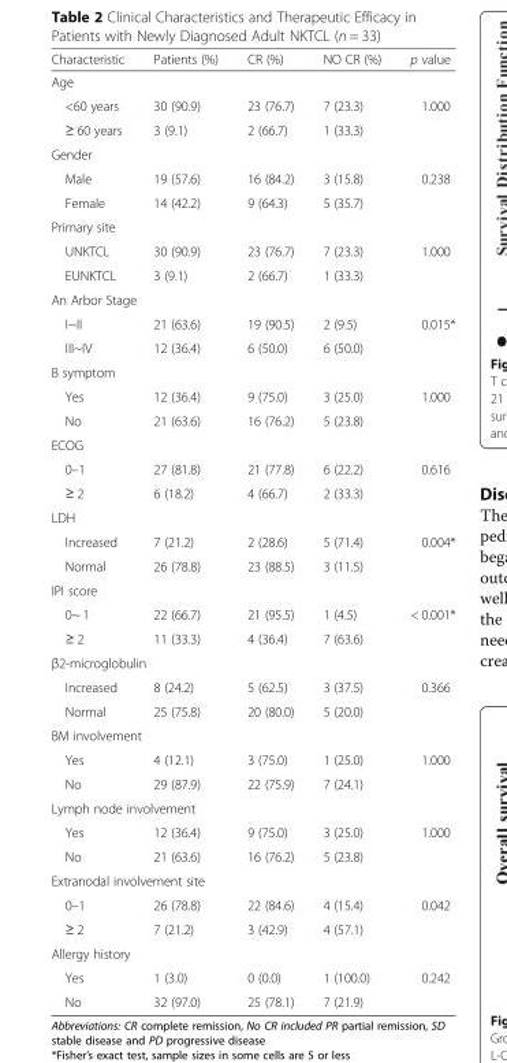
<table><thead><tr><td>Characteristic</td><td>Patients (%)</td><td>CR (%)</td><td>NO CR (%)</td><td>p value</td></tr></thead><tbody><tr><td colspan="5">Age</td></tr><tr><td>&lt;60 years</td><td>30 (90.9)</td><td>23 (76.7)</td><td>7 (23.3)</td><td>1.000</td></tr><tr><td>≥ 60 years</td><td>3 (9.1)</td><td>2 (66.7)</td><td>1 (33.3)</td><td></td></tr><tr><td colspan="5">Gender</td></tr><tr><td>Male</td><td>19 (57.6)</td><td>16 (84.2)</td><td>3 (15.8)</td><td>0.238</td></tr><tr><td>Female</td><td>14 (42.2)</td><td>9 (64.3)</td><td>5 (35.7)</td><td></td></tr><tr><td colspan="5">Primary site</td></tr><tr><td>UNKTCL</td><td>30 (90.9)</td><td>23 (76.7)</td><td>7 (23.3)</td><td>1.000</td></tr><tr><td>EUNKTCL</td><td>3 (9.1)</td><td>2 (66.7)</td><td>1 (33.3)</td><td></td></tr><tr><td colspan="5">An Arbor Stage</td></tr><tr><td>I~II</td><td>21 (63.6)</td><td>19 (90.5)</td><td>2 (9.5)</td><td>0.015*</td></tr><tr><td>III~IV</td><td>12 (36.4)</td><td>6 (50.0)</td><td>6 (50.0)</td><td></td></tr><tr><td colspan="5">B symptom</td></tr><tr><td>Yes</td><td>12 (36.4)</td><td>9 (75.0)</td><td>3 (25.0)</td><td>1.000</td></tr><tr><td>No</td><td>21 (63.6)</td><td>16 (76.2)</td><td>5 (23.8)</td><td></td></tr><tr><td colspan="5">ECOG</td></tr><tr><td>0–1</td><td>27 (81.8)</td><td>21 (77.8)</td><td>6 (22.2)</td><td>0.616</td></tr><tr><td>≥ 2</td><td>6 (18.2)</td><td>4 (66.7)</td><td>2 (33.3)</td><td></td></tr><tr><td colspan="5">LDH</td></tr><tr><td>Increased</td><td>7 (21.2)</td><td>2 (28.6)</td><td>5 (71.4)</td><td>0.004*</td></tr><tr><td>Normal</td><td>26 (78.8)</td><td>23 (88.5)</td><td>3 (11.5)</td><td></td></tr><tr><td colspan="5">IPI score</td></tr><tr><td>0~ 1</td><td>22 (66.7)</td><td>21 (95.5)</td><td>1 (4.5)</td><td>&lt; 0.001*</td></tr><tr><td>≥ 2</td><td>11 (33.3)</td><td>4 (36.4)</td><td>7 (63.6)</td><td></td></tr><tr><td colspan="5">β2-microglobulin</td></tr><tr><td>Increased</td><td>8 (24.2)</td><td>5 (62.5)</td><td>3 (37.5)</td><td>0.366</td></tr><tr><td>Normal</td><td>25 (75.8)</td><td>20 (80.0)</td><td>5 (20.0)</td><td></td></tr><tr><td colspan="5">BM involvement</td></tr><tr><td>Yes</td><td>4 (12.1)</td><td>3 (75.0)</td><td>1 (25.0)</td><td>1.000</td></tr><tr><td>No</td><td>29 (87.9)</td><td>22 (75.9)</td><td>7 (24.1)</td><td></td></tr><tr><td colspan="5">Lymph node involvement</td></tr><tr><td>Yes</td><td>12 (36.4)</td><td>9 (75.0)</td><td>3 (25.0)</td><td>1.000</td></tr><tr><td>No</td><td>21 (63.6)</td><td>16 (76.2)</td><td>5 (23.8)</td><td></td></tr><tr><td colspan="5">Extranodal involvement site</td></tr><tr><td>0–1</td><td>26 (78.8)</td><td>22 (84.6)</td><td>4 (15.4)</td><td>0.042</td></tr><tr><td>≥ 2</td><td>7 (21.2)</td><td>3 (42.9)</td><td>4 (57.1)</td><td></td></tr><tr><td colspan="5">Allergy history</td></tr><tr><td>Yes</td><td>1 (3.0)</td><td>0 (0.0)</td><td>1 (100.0)</td><td>0.242</td></tr><tr><td>No</td><td>32 (97.0)</td><td>25 (78.1)</td><td>7 (21.9)</td><td></td></tr></tbody></table>